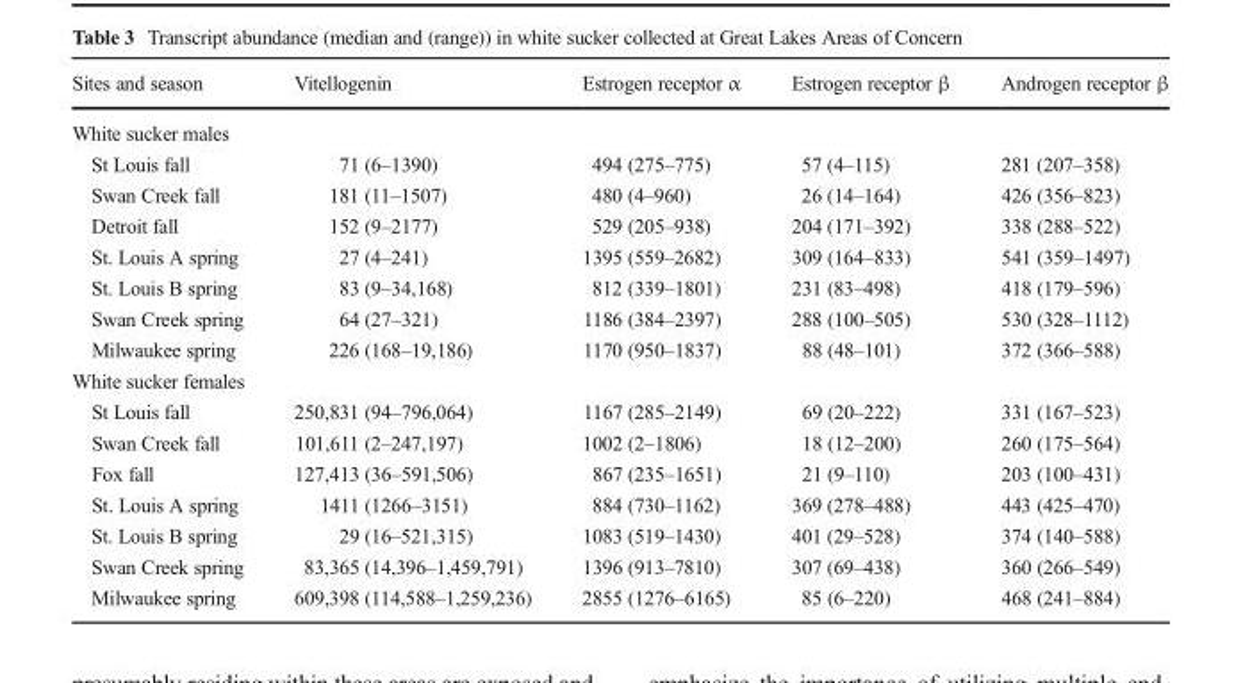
<table><thead><tr><td>Sites and season</td><td>Vitellogenin</td><td>Estrogen receptor α</td><td>Estrogen receptor β</td><td>Androgen receptor β</td></tr></thead><tbody><tr><td colspan="5">White sucker males</td></tr><tr><td>St Louis fall</td><td>71 (6–1390)</td><td>494 (275–775)</td><td>57 (4–115)</td><td>281 (207–358)</td></tr><tr><td>Swan Creek fall</td><td>181 (11–1507)</td><td>480 (4–960)</td><td>26 (14–164)</td><td>426 (356–823)</td></tr><tr><td>Detroit fall</td><td>152 (9–2177)</td><td>529 (205–938)</td><td>204 (171–392)</td><td>338 (288–522)</td></tr><tr><td>St. Louis A spring</td><td>27 (4–241)</td><td>1395 (559–2682)</td><td>309 (164–833)</td><td>541 (359–1497)</td></tr><tr><td>St. Louis B spring</td><td>83 (9–34,168)</td><td>812 (339–1801)</td><td>231 (83–498)</td><td>418 (179–596)</td></tr><tr><td>Swan Creek spring</td><td>64 (27–321)</td><td>1186 (384–2397)</td><td>288 (100–505)</td><td>530 (328–1112)</td></tr><tr><td>Milwaukee spring</td><td>226 (168–19,186)</td><td>1170 (950–1837)</td><td>88 (48–101)</td><td>372 (366–588)</td></tr><tr><td colspan="5">White sucker females</td></tr><tr><td>St Louis fall</td><td>250,831 (94–796,064)</td><td>1167 (285–2149)</td><td>69 (20–222)</td><td>331 (167–523)</td></tr><tr><td>Swan Creek fall</td><td>101,611 (2–247,197)</td><td>1002 (2–1806)</td><td>18 (12–200)</td><td>260 (175–564)</td></tr><tr><td>Fox fall</td><td>127,413 (36–591,506)</td><td>867 (235–1651)</td><td>21 (9–110)</td><td>203 (100–431)</td></tr><tr><td>St. Louis A spring</td><td>1411 (1266–3151)</td><td>884 (730–1162)</td><td>369 (278–488)</td><td>443 (425–470)</td></tr><tr><td>St. Louis B spring</td><td>29 (16–521,315)</td><td>1083 (519–1430)</td><td>401 (29–528)</td><td>374 (140–588)</td></tr><tr><td>Swan Creek spring</td><td>83,365 (14,396–1,459,791)</td><td>1396 (913–7810)</td><td>307 (69–438)</td><td>360 (266–549)</td></tr><tr><td>Milwaukee spring</td><td>609,398 (114,588–1,259,236)</td><td>2855 (1276–6165)</td><td>85 (6–220)</td><td>468 (241–884)</td></tr></tbody></table>